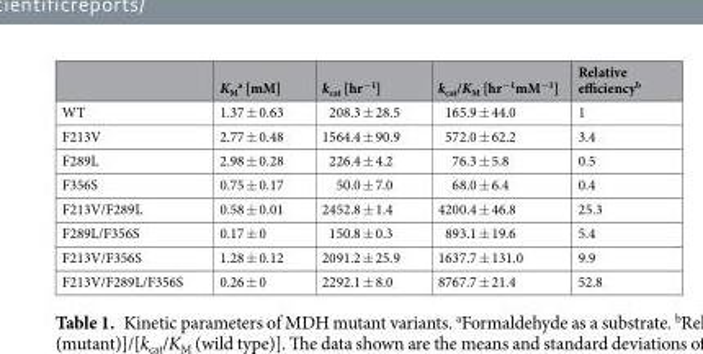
<table><thead><tr><td></td><td>K<sub>M</sub> <sup>a</sup> [mM]</td><td>k<sub>cat</sub> [hr<sup>−1</sup>]</td><td>k<sub>cat</sub>/K<sub>M</sub> [hr<sup>−1</sup>mM<sup>−1</sup>]</td><td>Relative efficiency<sup>b</sup></td></tr></thead><tbody><tr><td>WT</td><td>1.37 ± 0.63</td><td>208.3 ± 28.5</td><td>165.9 ± 44.0</td><td>1</td></tr><tr><td>F213V</td><td>2.77 ± 0.48</td><td>1564.4 ± 90.9</td><td>572.0 ± 62.2</td><td>3.4</td></tr><tr><td>F289L</td><td>2.98 ± 0.28</td><td>226.4 ± 4.2</td><td>76.3 ± 5.8</td><td>0.5</td></tr><tr><td>F356S</td><td>0.75 ± 0.17</td><td>50.0 ± 7.0</td><td>68.0 ± 6.4</td><td>0.4</td></tr><tr><td>F213V/F289L</td><td>0.58 ± 0.01</td><td>2452.8 ± 1.4</td><td>4200.4 ± 46.8</td><td>25.3</td></tr><tr><td>F289L/F356S</td><td>0.17 ± 0</td><td>150.8 ± 0.3</td><td>893.1 ± 19.6</td><td>5.4</td></tr><tr><td>F213V/F356S</td><td>1.28 ± 0.12</td><td>2091.2 ± 25.9</td><td>1637.7 ± 131.0</td><td>9.9</td></tr><tr><td>F213V/F289L/F356S</td><td>0.26 ± 0</td><td>2292.1 ± 8.0</td><td>8767.7 ± 21.4</td><td>52.8</td></tr></tbody></table>